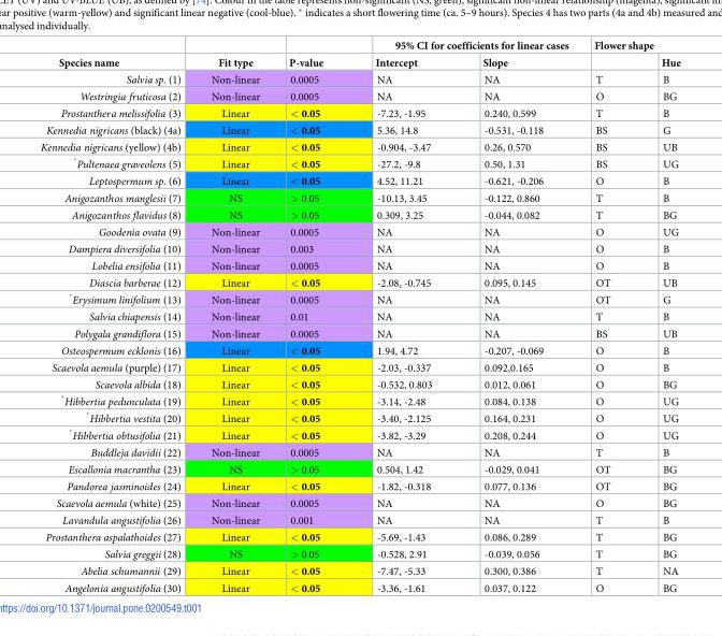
<table><thead><tr><td rowspan="2">Species name</td><td rowspan="2">Fit type</td><td rowspan="2">P-value</td><td colspan="2">95% CI for coefficients for linear cases</td><td colspan="2">Flower shape</td></tr><tr><td>Intercept</td><td>Slope</td><td></td><td>Hue</td></tr></thead><tbody><tr><td>Salvia sp. (1)</td><td>Non-linear</td><td>0.0005</td><td>NA</td><td>NA</td><td>T</td><td>B</td></tr><tr><td>Westringia fruticosa (2)</td><td>Non-linear</td><td>0.0005</td><td>NA</td><td>NA</td><td>O</td><td>BG</td></tr><tr><td>Prostanthera melissifolia (3)</td><td>Linear</td><td>&lt; 0.05</td><td>-7.23, -1.95</td><td>0.240, 0.599</td><td>T</td><td>B</td></tr><tr><td>Kennedia nigricans (black) (4a)</td><td>Linear</td><td>&lt; 0.05</td><td>5.36, 14.8</td><td>-0.531, -0.118</td><td>BS</td><td>G</td></tr><tr><td>Kennedia nigricans (yellow) (4b)</td><td>Linear</td><td>&lt; 0.05</td><td>-0.904, -3.47</td><td>0.26, 0.570</td><td>BS</td><td>UB</td></tr><tr><td>*Pultenaea graveolens (5)</td><td>Linear</td><td>&lt; 0.05</td><td>-27.2, -9.8</td><td>0.50, 1.31</td><td>BS</td><td>UG</td></tr><tr><td>Leptospermum sp. (6)</td><td>Linear</td><td>&lt; 0.05</td><td>4.52, 11.21</td><td>-0.621, -0.206</td><td>O</td><td>B</td></tr><tr><td>Anigozanthos manglesii (7)</td><td>NS</td><td>&gt; 0.05</td><td>-10.13, 3.45</td><td>-0.122, 0.860</td><td>T</td><td>B</td></tr><tr><td>Anigozanthos flavidus (8)</td><td>NS</td><td>&gt; 0.05</td><td>0.309, 3.25</td><td>-0.044, 0.082</td><td>T</td><td>BG</td></tr><tr><td>Goodenia ovata (9)</td><td>Non-linear</td><td>0.0005</td><td>NA</td><td>NA</td><td>O</td><td>UG</td></tr><tr><td>Dampiera diversifolia (10)</td><td>Non-linear</td><td>0.003</td><td>NA</td><td>NA</td><td>O</td><td>B</td></tr><tr><td>Lobelia ensifolia (11)</td><td>Non-linear</td><td>0.0005</td><td>NA</td><td>NA</td><td>O</td><td>B</td></tr><tr><td>Diascia barberae (12)</td><td>Linear</td><td>&lt; 0.05</td><td>-2.08, -0.745</td><td>0.095, 0.145</td><td>OT</td><td>UB</td></tr><tr><td>*Erysimum linifolium (13)</td><td>Non-linear</td><td>0.0005</td><td>NA</td><td>NA</td><td>OT</td><td>G</td></tr><tr><td>Salvia chiapensis (14)</td><td>Non-linear</td><td>0.01</td><td>NA</td><td>NA</td><td>T</td><td>B</td></tr><tr><td>Polygala grandiflora (15)</td><td>Non-linear</td><td>0.0005</td><td>NA</td><td>NA</td><td>BS</td><td>UB</td></tr><tr><td>Osteospermum ecklonis (16)</td><td>Linear</td><td>&lt; 0.05</td><td>1.94, 4.72</td><td>-0.207, -0.069</td><td>O</td><td>B</td></tr><tr><td>Scaevola aemula (purple) (17)</td><td>Linear</td><td>&lt; 0.05</td><td>-2.03, -0.337</td><td>0.092,0.165</td><td>O</td><td>B</td></tr><tr><td>Scaevola albida (18)</td><td>Linear</td><td>&lt; 0.05</td><td>-0.532, 0.803</td><td>0.012, 0.061</td><td>O</td><td>BG</td></tr><tr><td>*Hibbertia pedunculata (19)</td><td>Linear</td><td>&lt; 0.05</td><td>-3.14, -2.48</td><td>0.084, 0.138</td><td>O</td><td>UG</td></tr><tr><td>*Hibbertia vestita (20)</td><td>Linear</td><td>&lt; 0.05</td><td>-3.40, -2.125</td><td>0.164, 0.231</td><td>O</td><td>UG</td></tr><tr><td>*Hibbertia obtusifolia (21)</td><td>Linear</td><td>&lt; 0.05</td><td>-3.82, -3.29</td><td>0.208, 0.244</td><td>O</td><td>UG</td></tr><tr><td>Buddleja davidii (22)</td><td>Non-linear</td><td>0.0005</td><td>NA</td><td>NA</td><td>T</td><td>B</td></tr><tr><td>Escallonia macrantha (23)</td><td>NS</td><td>&gt; 0.05</td><td>0.504, 1.42</td><td>-0.029, 0.041</td><td>OT</td><td>BG</td></tr><tr><td>Pandorea jasminoides (24)</td><td>Linear</td><td>&lt; 0.05</td><td>-1.82, -0.318</td><td>0.077, 0.136</td><td>OT</td><td>BG</td></tr><tr><td>Scaevola aemula (white) (25)</td><td>Non-linear</td><td>0.0005</td><td>NA</td><td>NA</td><td>O</td><td>BG</td></tr><tr><td>Lavandula angustifolia (26)</td><td>Non-linear</td><td>0.001</td><td>NA</td><td>NA</td><td>T</td><td>B</td></tr><tr><td>Prostanthera aspalathoides (27)</td><td>Linear</td><td>&lt; 0.05</td><td>-5.69, -1.43</td><td>0.086, 0.289</td><td>T</td><td>BG</td></tr><tr><td>Salvia greggii (28)</td><td>NS</td><td>&gt; 0.05</td><td>-0.528, 2.91</td><td>-0.039, 0.056</td><td>T</td><td>BG</td></tr><tr><td>Abelia schumannii (29)</td><td>Linear</td><td>&lt; 0.05</td><td>-7.47, -5.33</td><td>0.300, 0.386</td><td>T</td><td>NA</td></tr><tr><td>Angelonia angustifolia (30)</td><td>Linear</td><td>&lt; 0.05</td><td>-3.36, -1.61</td><td>0.037, 0.122</td><td>O</td><td>BG</td></tr></tbody></table>